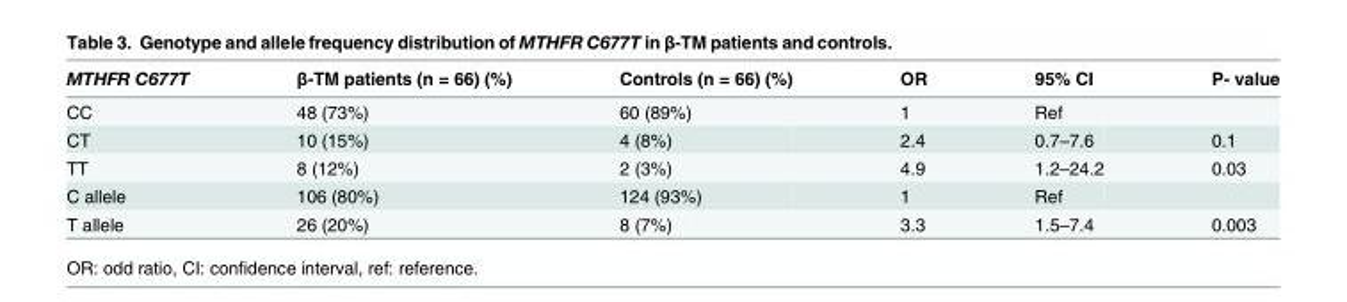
<table><thead><tr><td>MTHFR C677T</td><td>β-TM patients (n = 66) (%)</td><td>Controls (n = 66) (%)</td><td>OR</td><td>95% CI</td><td>P- value</td></tr></thead><tbody><tr><td>CC</td><td>48 (73%)</td><td>60 (89%)</td><td>1</td><td>Ref</td><td></td></tr><tr><td>CT</td><td>10 (15%)</td><td>4 (8%)</td><td>2.4</td><td>0.7–7.6</td><td>0.1</td></tr><tr><td>TT</td><td>8 (12%)</td><td>2 (3%)</td><td>4.9</td><td>1.2–24.2</td><td>0.03</td></tr><tr><td>C allele</td><td>106 (80%)</td><td>124 (93%)</td><td>1</td><td>Ref</td><td></td></tr><tr><td>T allele</td><td>26 (20%)</td><td>8 (7%)</td><td>3.3</td><td>1.5–7.4</td><td>0.003</td></tr></tbody></table>